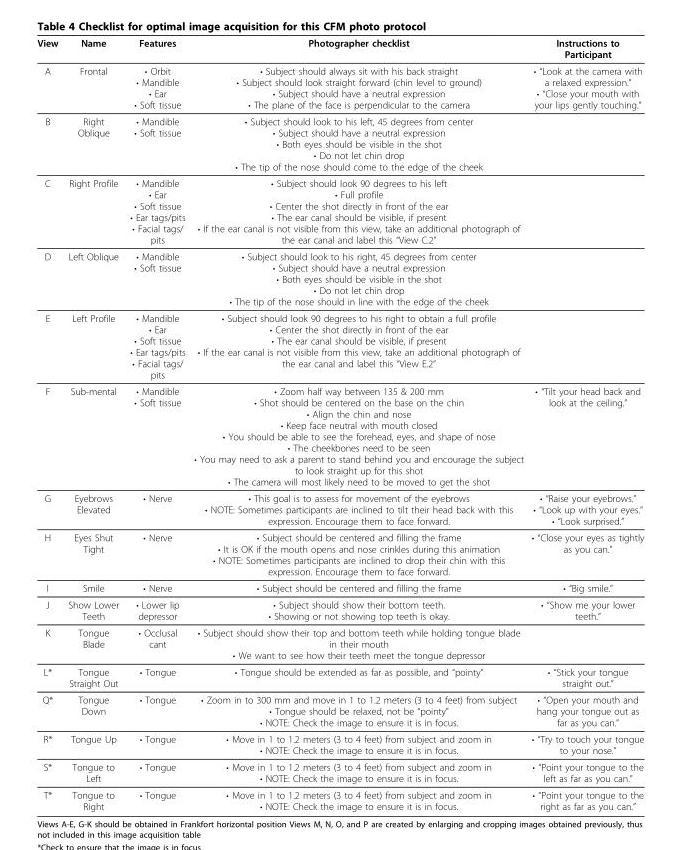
<table><thead><tr><td>View</td><td>Name</td><td>Features</td><td>Photographer checklist</td><td>Instructions to Participant</td></tr></thead><tbody><tr><td>A</td><td>Frontal</td><td>• Orbit • Mandible • Ear • Soft tissue</td><td>• Subject should always sit with his back straight • Subject should look straight forward (chin level to ground) • Subject should have a neutral expression • The plane of the face is perpendicular to the camera</td><td>• “Look at the camera with a relaxed expression.” • “Close your mouth with your lips gently touching.”</td></tr><tr><td>B</td><td>Right Oblique</td><td>• Mandible • Soft tissue</td><td>• Subject should look to his left, 45 degrees from center • Subject should have a neutral expression • Both eyes should be visible in the shot • Do not let chin drop • The tip of the nose should come to the edge of the cheek</td><td></td></tr><tr><td>C</td><td>Right Profile</td><td>• Mandible • Ear • Soft tissue • Ear tags/pits • Facial tags/ pits</td><td>• Subject should look 90 degrees to his left • Full profile • Center the shot directly in front of the ear • The ear canal should be visible, if present • If the ear canal is not visible from this view, take an additional photograph of the ear canal and label this “View C.2”</td><td></td></tr><tr><td>D</td><td>Left Oblique</td><td>• Mandible • Soft tissue</td><td>• Subject should look to his right, 45 degrees from center • Subject should have a neutral expression • Both eyes should be visible in the shot • Do not let chin drop • The tip of the nose should in line with the edge of the cheek</td><td></td></tr><tr><td>E</td><td>Left Profile</td><td>• Mandible • Ear • Soft tissue • Ear tags/pits • Facial tags/ pits</td><td>• Subject should look 90 degrees to his right to obtain a full profile • Center the shot directly in front of the ear • The ear canal should be visible, if present • If the ear canal is not visible from this view, take an additional photograph of the ear canal and label this “View E.2”</td><td></td></tr><tr><td>F</td><td>Sub-mental</td><td>• Mandible • Soft tissue</td><td>• Zoom half way between 135 &amp; 200 mm • Shot should be centered on the base on the chin • Align the chin and nose • Keep face neutral with mouth closed • You should be able to see the forehead, eyes, and shape of nose • The cheekbones need to be seen • You may need to ask a parent to stand behind you and encourage the subject to look straight up for this shot • The camera will most likely need to be moved to get the shot</td><td>• “Tilt your head back and look at the ceiling.”</td></tr><tr><td>G</td><td>Eyebrows Elevated</td><td>• Nerve</td><td>• This goal is to assess for movement of the eyebrows • NOTE: Sometimes participants are inclined to tilt their head back with this expression. Encourage them to face forward.</td><td>• “Raise your eyebrows.” • “Look up with your eyes.” • “Look surprised.”</td></tr><tr><td>H</td><td>Eyes Shut Tight</td><td>• Nerve</td><td>• Subject should be centered and filling the frame • It is OK if the mouth opens and nose crinkles during this animation • NOTE: Sometimes participants are inclined to drop their chin with this expression. Encourage them to face forward.</td><td>• “Close your eyes as tightly as you can.”</td></tr><tr><td>I</td><td>Smile</td><td>• Nerve</td><td>• Subject should be centered and filling the frame</td><td>• “Big smile.”</td></tr><tr><td>J</td><td>Show Lower Teeth</td><td>• Lower lip depressor</td><td>• Subject should show their bottom teeth. • Showing or not showing top teeth is okay.</td><td>• “Show me your lower teeth.”</td></tr><tr><td>K</td><td>Tongue Blade</td><td>• Occlusal cant</td><td>• Subject should show their top and bottom teeth while holding tongue blade in their mouth • We want to see how their teeth meet the tongue depressor</td><td></td></tr><tr><td>L*</td><td>Tongue Straight Out</td><td>• Tongue</td><td>• Tongue should be extended as far as possible, and “pointy”</td><td>• “Stick your tongue straight out.”</td></tr><tr><td>Q*</td><td>Tongue Down</td><td>• Tongue</td><td>• Zoom in to 300 mm and move in 1 to 1.2 meters (3 to 4 feet) from subject • Tongue should be relaxed, not be “pointy” • NOTE: Check the image to ensure it is in focus.</td><td>• “Open your mouth and hang your tongue out as far as you can.”</td></tr><tr><td>R*</td><td>Tongue Up</td><td>• Tongue</td><td>• Move in 1 to 1.2 meters (3 to 4 feet) from subject and zoom in • NOTE: Check the image to ensure it is in focus.</td><td>• “Try to touch your tongue to your nose.”</td></tr><tr><td>S*</td><td>Tongue to Left</td><td>• Tongue</td><td>• Move in 1 to 1.2 meters (3 to 4 feet) from subject and zoom in • NOTE: Check the image to ensure it is in focus.</td><td>• “Point your tongue to the left as far as you can.”</td></tr><tr><td>T*</td><td>Tongue to Right</td><td>• Tongue</td><td>• Move in 1 to 1.2 meters (3 to 4 feet) from subject and zoom in • NOTE: Check the image to ensure it is in focus.</td><td>• “Point your tongue to the right as far as you can.”</td></tr></tbody></table>